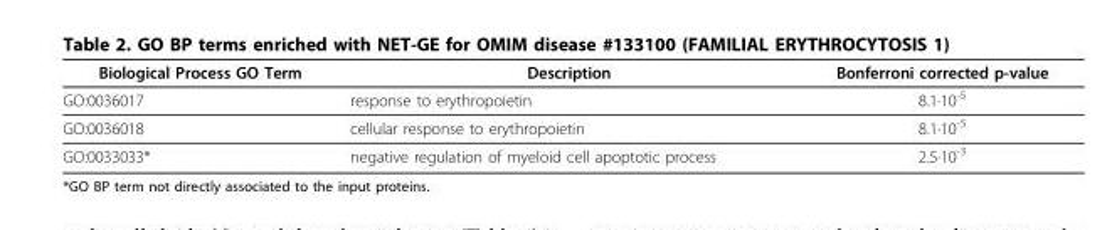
<table><thead><tr><td>Biological Process GO Term</td><td>Description</td><td>Bonferroni corrected p-value</td></tr></thead><tbody><tr><td>GO:0036017</td><td>response to erythropoietin</td><td>8.1·10<sup>-5</sup></td></tr><tr><td>GO:0036018</td><td>cellular response to erythropoietin</td><td>8.1·10<sup>-5</sup></td></tr><tr><td>GO:0033033*</td><td>negative regulation of myeloid cell apoptotic process</td><td>2.5·10<sup>-3</sup></td></tr></tbody></table>